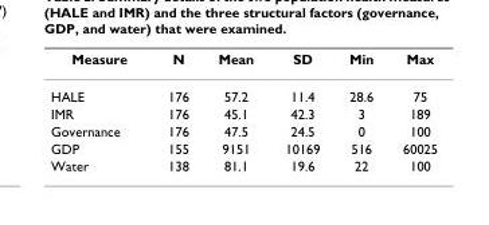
<table><thead><tr><td>Measure</td><td>N</td><td>Mean</td><td>SD</td><td>Min</td><td>Max</td></tr></thead><tbody><tr><td>HALE</td><td>176</td><td>57.2</td><td>11.4</td><td>28.6</td><td>75</td></tr><tr><td>IMR</td><td>176</td><td>45.1</td><td>42.3</td><td>3</td><td>189</td></tr><tr><td>Governance</td><td>176</td><td>47.5</td><td>24.5</td><td>0</td><td>100</td></tr><tr><td>GDP</td><td>155</td><td>9151</td><td>10169</td><td>516</td><td>60025</td></tr><tr><td>Water</td><td>138</td><td>81.1</td><td>19.6</td><td>22</td><td>100</td></tr></tbody></table>